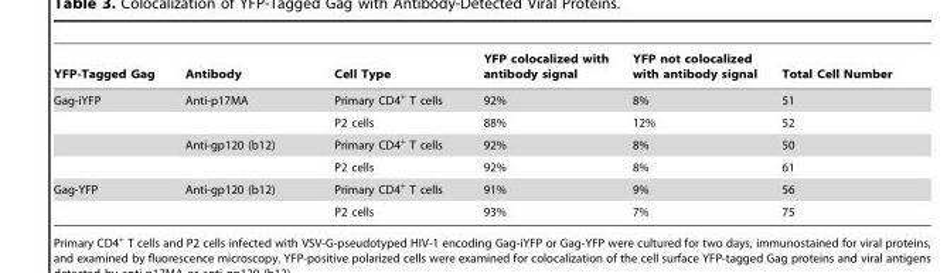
<table><thead><tr><td>YFP-Tagged Gag</td><td>Antibody</td><td>Cell Type</td><td>YFP colocalized with antibody signal</td><td>YFP not colocalized with antibody signal</td><td>Total Cell Number</td></tr></thead><tbody><tr><td rowspan="4">Gag-iYFP</td><td>Anti-p17MA</td><td>Primary CD4<sup>+</sup> T cells</td><td>92%</td><td>8%</td><td>51</td></tr><tr><td></td><td>P2 cells</td><td>88%</td><td>12%</td><td>52</td></tr><tr><td>Anti-gp120 (b12)</td><td>Primary CD4<sup>+</sup> T cells</td><td>92%</td><td>8%</td><td>50</td></tr><tr><td></td><td>P2 cells</td><td>92%</td><td>8%</td><td>61</td></tr><tr><td rowspan="2">Gag-YFP</td><td>Anti-gp120 (b12)</td><td>Primary CD4<sup>+</sup> T cells</td><td>91%</td><td>9%</td><td>56</td></tr><tr><td></td><td>P2 cells</td><td>93%</td><td>7%</td><td>75</td></tr></tbody></table>